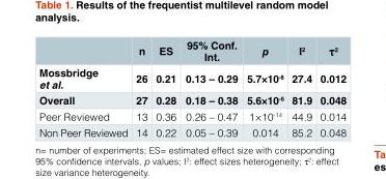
<table><thead><tr><td></td><td>n</td><td>ES</td><td>95% Conf. Int.</td><td>p</td><td>I<sup>2</sup></td><td>τ<sup>2</sup></td></tr></thead><tbody><tr><td>Mossbridge et al.</td><td>26</td><td>0.21</td><td>0.13 – 0.29</td><td>5.7×10<sup>-8</sup></td><td>27.4</td><td>0.012</td></tr><tr><td>Overall</td><td>27</td><td>0.28</td><td>0.18 – 0.38</td><td>5.6×10<sup>-6</sup></td><td>81.9</td><td>0.048</td></tr><tr><td>Peer Reviewed</td><td>13</td><td>0.36</td><td>0.26 – 0.47</td><td>1×10<sup>-14</sup></td><td>44.9</td><td>0.014</td></tr><tr><td>Non Peer Reviewed</td><td>14</td><td>0.22</td><td>0.05 – 0.39</td><td>0.014</td><td>85.2</td><td>0.048</td></tr></tbody></table>